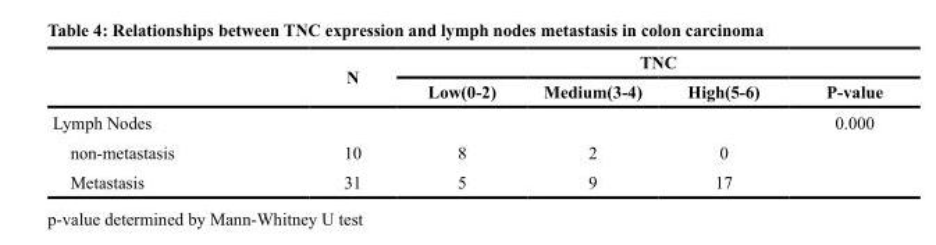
<table><thead><tr><td rowspan="2"></td><td rowspan="2">N</td><td colspan="4">TNC</td></tr><tr><td>Low(0-2)</td><td>Medium(3-4)</td><td>High(5-6)</td><td>P-value</td></tr></thead><tbody><tr><td>Lymph Nodes</td><td></td><td></td><td></td><td></td><td>0.000</td></tr><tr><td>non-metastasis</td><td>10</td><td>8</td><td>2</td><td>0</td><td></td></tr><tr><td>Metastasis</td><td>31</td><td>5</td><td>9</td><td>17</td><td></td></tr></tbody></table>